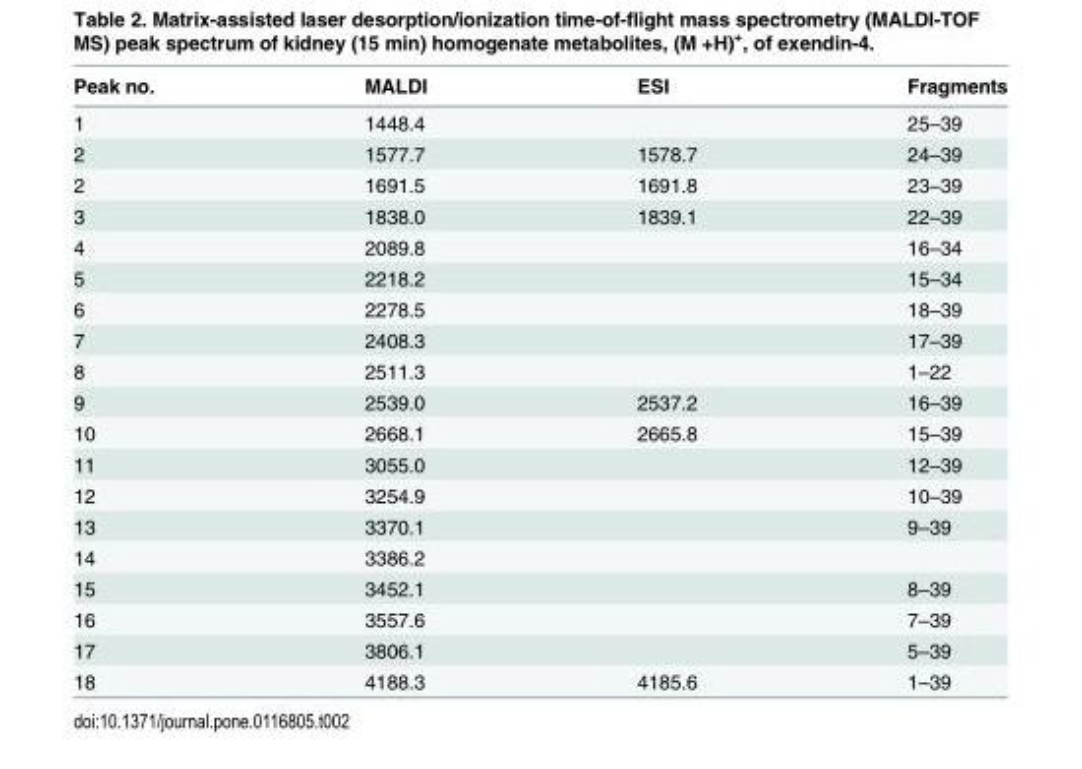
<table><thead><tr><td>Peak no.</td><td>MALDI</td><td>ESI</td><td>Fragments</td></tr></thead><tbody><tr><td>1</td><td>1448.4</td><td></td><td>25–39</td></tr><tr><td>2</td><td>1577.7</td><td>1578.7</td><td>24–39</td></tr><tr><td>2</td><td>1691.5</td><td>1691.8</td><td>23–39</td></tr><tr><td>3</td><td>1838.0</td><td>1839.1</td><td>22–39</td></tr><tr><td>4</td><td>2089.8</td><td></td><td>16–34</td></tr><tr><td>5</td><td>2218.2</td><td></td><td>15–34</td></tr><tr><td>6</td><td>2278.5</td><td></td><td>18–39</td></tr><tr><td>7</td><td>2408.3</td><td></td><td>17–39</td></tr><tr><td>8</td><td>2511.3</td><td></td><td>1–22</td></tr><tr><td>9</td><td>2539.0</td><td>2537.2</td><td>16–39</td></tr><tr><td>10</td><td>2668.1</td><td>2665.8</td><td>15–39</td></tr><tr><td>11</td><td>3055.0</td><td></td><td>12–39</td></tr><tr><td>12</td><td>3254.9</td><td></td><td>10–39</td></tr><tr><td>13</td><td>3370.1</td><td></td><td>9–39</td></tr><tr><td>14</td><td>3386.2</td><td></td><td></td></tr><tr><td>15</td><td>3452.1</td><td></td><td>8–39</td></tr><tr><td>16</td><td>3557.6</td><td></td><td>7–39</td></tr><tr><td>17</td><td>3806.1</td><td></td><td>5–39</td></tr><tr><td>18</td><td>4188.3</td><td>4185.6</td><td>1–39</td></tr></tbody></table>